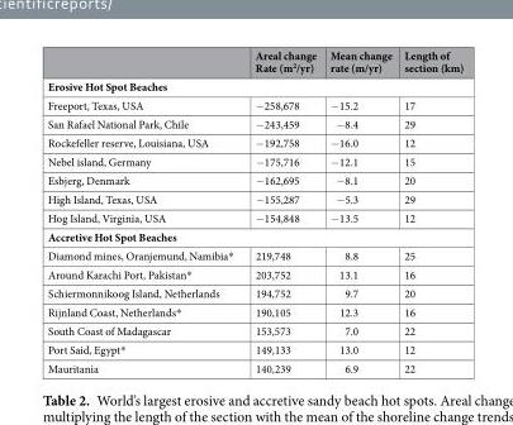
<table><thead><tr><td></td><td>Areal change Rate (m<sup>2</sup>/yr)</td><td>Mean change rate (m/yr)</td><td>Length of section (km)</td></tr></thead><tbody><tr><td colspan="4">Erosive Hot Spot Beaches</td></tr><tr><td>Freeport, Texas, USA</td><td>−258,678</td><td>−15.2</td><td>17</td></tr><tr><td>San Rafael National Park, Chile</td><td>−243,459</td><td>−8.4</td><td>29</td></tr><tr><td>Rockefeller reserve, Louisiana, USA</td><td>−192,758</td><td>−16.0</td><td>12</td></tr><tr><td>Nebel island, Germany</td><td>−175,716</td><td>−12.1</td><td>15</td></tr><tr><td>Esbjerg, Denmark</td><td>−162,695</td><td>−8.1</td><td>20</td></tr><tr><td>High Island, Texas, USA</td><td>−155,287</td><td>−5.3</td><td>29</td></tr><tr><td>Hog Island, Virginia, USA</td><td>−154,848</td><td>−13.5</td><td>12</td></tr><tr><td colspan="4">Accretive Hot Spot Beaches</td></tr><tr><td>Diamond mines, Oranjemund, Namibia*</td><td>219,748</td><td>8.8</td><td>25</td></tr><tr><td>Around Karachi Port, Pakistan*</td><td>203,752</td><td>13.1</td><td>16</td></tr><tr><td>Schiermonnikoog Island, Netherlands</td><td>194,752</td><td>9.7</td><td>20</td></tr><tr><td>Rijnland Coast, Netherlands*</td><td>190,105</td><td>12.3</td><td>16</td></tr><tr><td>South Coast of Madagascar</td><td>153,573</td><td>7.0</td><td>22</td></tr><tr><td>Port Said, Egypt*</td><td>149,133</td><td>13.0</td><td>12</td></tr><tr><td>Mauritania</td><td>140,239</td><td>6.9</td><td>22</td></tr></tbody></table>